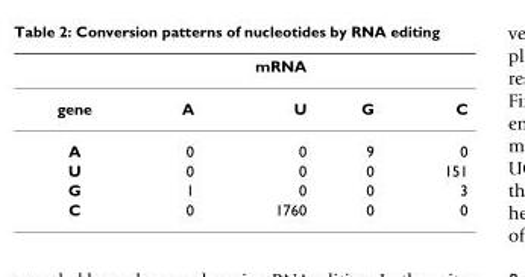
<table><thead><tr><td rowspan="2">gene</td><td colspan="2">mRNA</td><td rowspan="2">G</td><td rowspan="2">C</td></tr><tr><td>A</td><td>U</td></tr></thead><tbody><tr><td>A</td><td>0</td><td>0</td><td>9</td><td>0</td></tr><tr><td>U</td><td>0</td><td>0</td><td>0</td><td>151</td></tr><tr><td>G</td><td>1</td><td>0</td><td>0</td><td>3</td></tr><tr><td>C</td><td>0</td><td>1760</td><td>0</td><td>0</td></tr></tbody></table>